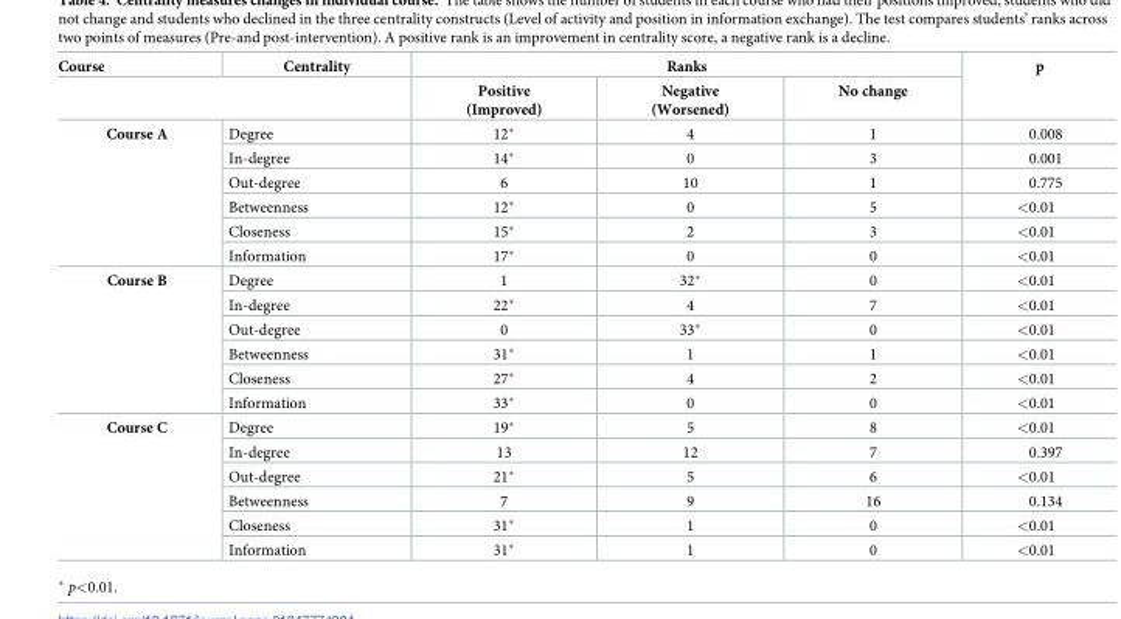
<table><thead><tr><td rowspan="2">Course</td><td rowspan="2">Centrality</td><td colspan="3">Ranks</td><td rowspan="2">p</td></tr><tr><td>Positive (Improved)</td><td>Negative (Worsened)</td><td>No change</td></tr></thead><tbody><tr><td rowspan="6">Course A</td><td>Degree</td><td>12*</td><td>4</td><td>1</td><td>0.008</td></tr><tr><td>In-degree</td><td>14*</td><td>0</td><td>3</td><td>0.001</td></tr><tr><td>Out-degree</td><td>6</td><td>10</td><td>1</td><td>0.775</td></tr><tr><td>Betweenness</td><td>12*</td><td>0</td><td>5</td><td>&lt;0.01</td></tr><tr><td>Closeness</td><td>15*</td><td>2</td><td>3</td><td>&lt;0.01</td></tr><tr><td>Information</td><td>17*</td><td>0</td><td>0</td><td>&lt;0.01</td></tr><tr><td rowspan="6">Course B</td><td>Degree</td><td>1</td><td>32*</td><td>0</td><td>&lt;0.01</td></tr><tr><td>In-degree</td><td>22*</td><td>4</td><td>7</td><td>&lt;0.01</td></tr><tr><td>Out-degree</td><td>0</td><td>33*</td><td>0</td><td>&lt;0.01</td></tr><tr><td>Betweenness</td><td>31*</td><td>1</td><td>1</td><td>&lt;0.01</td></tr><tr><td>Closeness</td><td>27*</td><td>4</td><td>2</td><td>&lt;0.01</td></tr><tr><td>Information</td><td>33*</td><td>0</td><td>0</td><td>&lt;0.01</td></tr><tr><td rowspan="6">Course C</td><td>Degree</td><td>19*</td><td>5</td><td>8</td><td>&lt;0.01</td></tr><tr><td>In-degree</td><td>13</td><td>12</td><td>7</td><td>0.397</td></tr><tr><td>Out-degree</td><td>21*</td><td>5</td><td>6</td><td>&lt;0.01</td></tr><tr><td>Betweenness</td><td>7</td><td>9</td><td>16</td><td>0.134</td></tr><tr><td>Closeness</td><td>31*</td><td>1</td><td>0</td><td>&lt;0.01</td></tr><tr><td>Information</td><td>31*</td><td>1</td><td>0</td><td>&lt;0.01</td></tr></tbody></table>